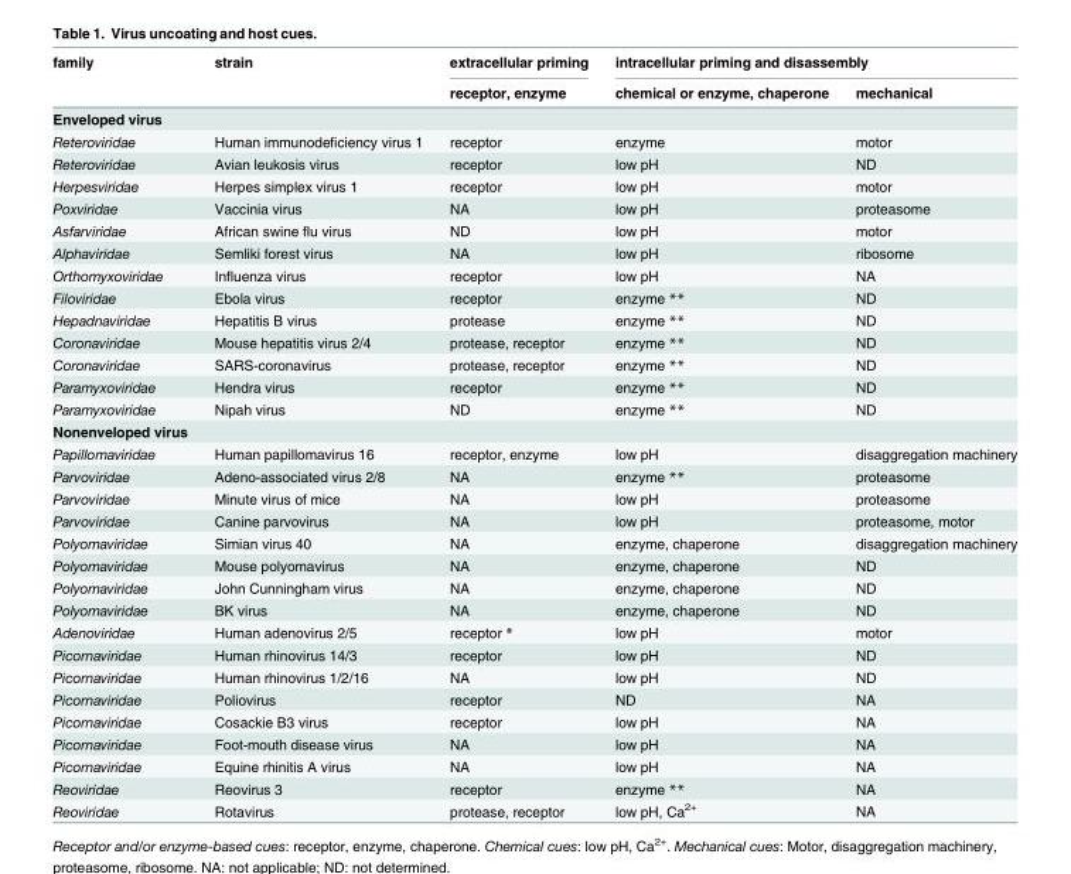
<table><thead><tr><td rowspan="2">family</td><td rowspan="2">strain</td><td rowspan="2">extracellular priming receptor, enzyme</td><td colspan="2">intracellular priming and disassembly</td></tr><tr><td>chemical or enzyme, chaperone</td><td>mechanical</td></tr></thead><tbody><tr><td colspan="5">Enveloped virus</td></tr><tr><td>Reteroviridae</td><td>Human immunodeficiency virus 1</td><td>receptor</td><td>enzyme</td><td>motor</td></tr><tr><td>Reteroviridae</td><td>Avian leukosis virus</td><td>receptor</td><td>low pH</td><td>ND</td></tr><tr><td>Herpesviridae</td><td>Herpes simplex virus 1</td><td>receptor</td><td>low pH</td><td>motor</td></tr><tr><td>Poxviridae</td><td>Vaccinia virus</td><td>NA</td><td>low pH</td><td>proteasome</td></tr><tr><td>Asfarviridae</td><td>African swine flu virus</td><td>ND</td><td>low pH</td><td>motor</td></tr><tr><td>Alphaviridae</td><td>Semliki forest virus</td><td>NA</td><td>low pH</td><td>ribosome</td></tr><tr><td>Orthomyxoviridae</td><td>Influenza virus</td><td>receptor</td><td>low pH</td><td>NA</td></tr><tr><td>Filoviridae</td><td>Ebola virus</td><td>receptor</td><td>enzyme **</td><td>ND</td></tr><tr><td>Hepadnaviridae</td><td>Hepatitis B virus</td><td>protease</td><td>enzyme **</td><td>ND</td></tr><tr><td>Coronaviridae</td><td>Mouse hepatitis virus 2/4</td><td>protease, receptor</td><td>enzyme **</td><td>ND</td></tr><tr><td>Coronaviridae</td><td>SARS-coronavirus</td><td>protease, receptor</td><td>enzyme **</td><td>ND</td></tr><tr><td>Paramyxoviridae</td><td>Hendra virus</td><td>receptor</td><td>enzyme **</td><td>ND</td></tr><tr><td>Paramyxoviridae</td><td>Nipah virus</td><td>ND</td><td>enzyme **</td><td>ND</td></tr><tr><td colspan="5">Nonenveloped virus</td></tr><tr><td>Papillomaviridae</td><td>Human papillomavirus 16</td><td>receptor, enzyme</td><td>low pH</td><td>disaggregation machinery</td></tr><tr><td>Parvoviridae</td><td>Adeno-associated virus 2/8</td><td>NA</td><td>enzyme **</td><td>proteasome</td></tr><tr><td>Parvoviridae</td><td>Minute virus of mice</td><td>NA</td><td>low pH</td><td>proteasome</td></tr><tr><td>Parvoviridae</td><td>Canine parvovirus</td><td>NA</td><td>low pH</td><td>proteasome, motor</td></tr><tr><td>Polyomaviridae</td><td>Simian virus 40</td><td>NA</td><td>enzyme, chaperone</td><td>disaggregation machinery</td></tr><tr><td>Polyomaviridae</td><td>Mouse polyomavirus</td><td>NA</td><td>enzyme, chaperone</td><td>ND</td></tr><tr><td>Polyomaviridae</td><td>John Cunningham virus</td><td>NA</td><td>enzyme, chaperone</td><td>ND</td></tr><tr><td>Polyomaviridae</td><td>BK virus</td><td>NA</td><td>enzyme, chaperone</td><td>ND</td></tr><tr><td>Adenoviridae</td><td>Human adenovirus 2/5</td><td>receptor *</td><td>low pH</td><td>motor</td></tr><tr><td>Picornaviridae</td><td>Human rhinovirus 14/3</td><td>receptor</td><td>low pH</td><td>ND</td></tr><tr><td>Picornaviridae</td><td>Human rhinovirus 1/2/16</td><td>NA</td><td>low pH</td><td>ND</td></tr><tr><td>Picornaviridae</td><td>Poliovirus</td><td>receptor</td><td>ND</td><td>NA</td></tr><tr><td>Picornaviridae</td><td>Cosackie B3 virus</td><td>receptor</td><td>low pH</td><td>NA</td></tr><tr><td>Picornaviridae</td><td>Foot-mouth disease virus</td><td>NA</td><td>low pH</td><td>NA</td></tr><tr><td>Picornaviridae</td><td>Equine rhinitis A virus</td><td>NA</td><td>low pH</td><td>NA</td></tr><tr><td>Reoviridae</td><td>Reovirus 3</td><td>receptor</td><td>enzyme **</td><td>NA</td></tr><tr><td>Reoviridae</td><td>Rotavirus</td><td>protease, receptor</td><td>low pH, Ca<sup>2+</sup></td><td>NA</td></tr></tbody></table>